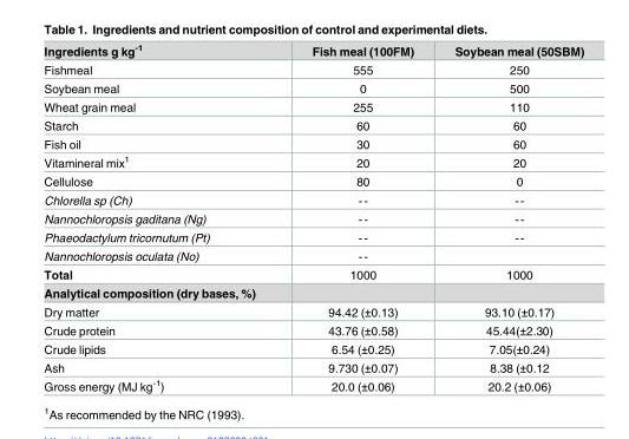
<table><thead><tr><td>Ingredients g kg<sup>-1</sup></td><td>Fish meal (100FM)</td><td>Soybean meal (50SBM)</td></tr></thead><tbody><tr><td>Fishmeal</td><td>555</td><td>250</td></tr><tr><td>Soybean meal</td><td>0</td><td>500</td></tr><tr><td>Wheat grain meal</td><td>255</td><td>110</td></tr><tr><td>Starch</td><td>60</td><td>60</td></tr><tr><td>Fish oil</td><td>30</td><td>60</td></tr><tr><td>Vitamineral mix<sup>1</sup></td><td>20</td><td>20</td></tr><tr><td>Cellulose</td><td>80</td><td>0</td></tr><tr><td>Chlorella sp (Ch)</td><td>--</td><td>--</td></tr><tr><td>Nannochloropsis gaditana (Ng)</td><td>--</td><td>--</td></tr><tr><td>Phaeodactylum tricornutum (Pt)</td><td>--</td><td>--</td></tr><tr><td>Nannochloropsis oculata (No)</td><td>--</td><td></td></tr><tr><td>Total</td><td>1000</td><td>1000</td></tr><tr><td colspan="3">Analytical composition (dry bases, %)</td></tr><tr><td>Dry matter</td><td>94.42 (±0.13)</td><td>93.10 (±0.17)</td></tr><tr><td>Crude protein</td><td>43.76 (±0.58)</td><td>45.44(±2.30)</td></tr><tr><td>Crude lipids</td><td>6.54 (±0.25)</td><td>7.05(±0.24)</td></tr><tr><td>Ash</td><td>9.730 (±0.07)</td><td>8.38 (±0.12</td></tr><tr><td>Gross energy (MJ kg<sup>-1</sup>)</td><td>20.0 (±0.06)</td><td>20.2 (±0.06)</td></tr></tbody></table>